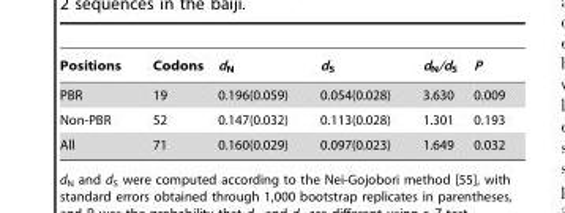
<table><thead><tr><td>Positions</td><td>Codons</td><td>d<sub>N</sub></td><td>d<sub>S</sub></td><td>d<sub>N</sub>/d<sub>S</sub></td><td>P</td></tr></thead><tbody><tr><td>PBR</td><td>19</td><td>0.196(0.059)</td><td>0.054(0.028)</td><td>3.630</td><td>0.009</td></tr><tr><td>Non-PBR</td><td>52</td><td>0.147(0.032)</td><td>0.113(0.028)</td><td>1.301</td><td>0.193</td></tr><tr><td>All</td><td>71</td><td>0.160(0.029)</td><td>0.097(0.023)</td><td>1.649</td><td>0.032</td></tr></tbody></table>